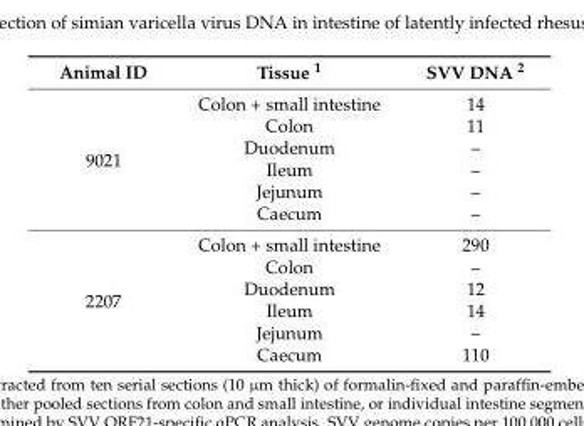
<table><thead><tr><td>Animal ID</td><td>Tissue <sup>1</sup></td><td>SVV DNA <sup>2</sup></td></tr></thead><tbody><tr><td rowspan="6">9021</td><td>Colon + small intestine</td><td>14</td></tr><tr><td>Colon</td><td>11</td></tr><tr><td>Duodenum</td><td>–</td></tr><tr><td>Ileum</td><td>–</td></tr><tr><td>Jejunum</td><td>–</td></tr><tr><td>Caecum</td><td>–</td></tr><tr><td rowspan="6">2207</td><td>Colon + small intestine</td><td>290</td></tr><tr><td>Colon</td><td>–</td></tr><tr><td>Duodenum</td><td>12</td></tr><tr><td>Ileum</td><td>14</td></tr><tr><td>Jejunum</td><td>–</td></tr><tr><td>Caecum</td><td>110</td></tr></tbody></table>